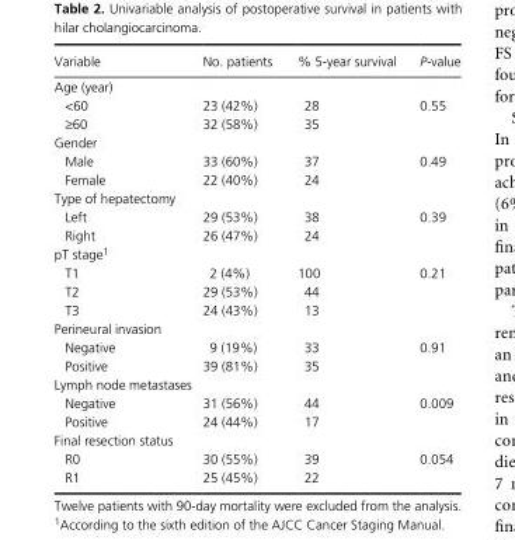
<table><thead><tr><td>Variable</td><td>No. patients</td><td>% 5- year survival</td><td>P- value</td></tr></thead><tbody><tr><td colspan="4">Age (year)</td></tr><tr><td>&lt;60</td><td>23 (42%)</td><td>28</td><td rowspan="2">0.55</td></tr><tr><td>≥60</td><td>32 (58%)</td><td>35</td></tr><tr><td colspan="4">Gender</td></tr><tr><td>Male</td><td>33 (60%)</td><td>37</td><td rowspan="2">0.49</td></tr><tr><td>Female</td><td>22 (40%)</td><td>24</td></tr><tr><td colspan="4">Type of hepatectomy</td></tr><tr><td>Left</td><td>29 (53%)</td><td>38</td><td rowspan="2">0.39</td></tr><tr><td>Right</td><td>26 (47%)</td><td>24</td></tr><tr><td colspan="4">pT stage1</td></tr><tr><td>T1</td><td>2 (4%)</td><td>100</td><td rowspan="3">0.21</td></tr><tr><td>T2</td><td>29 (53%)</td><td>44</td></tr><tr><td>T3</td><td>24 (43%)</td><td>13</td></tr><tr><td colspan="4">Perineural invasion</td></tr><tr><td>Negative</td><td>9 (19%)</td><td>33</td><td rowspan="2">0.91</td></tr><tr><td>Positive</td><td>39 (81%)</td><td>35</td></tr><tr><td colspan="4">Lymph node metastases</td></tr><tr><td>Negative</td><td>31 (56%)</td><td>44</td><td rowspan="2">0.009</td></tr><tr><td>Positive</td><td>24 (44%)</td><td>17</td></tr><tr><td colspan="4">Final resection status</td></tr><tr><td>R0</td><td>30 (55%)</td><td>39</td><td rowspan="2">0.054</td></tr><tr><td>R1</td><td>25 (45%)</td><td>22</td></tr></tbody></table>